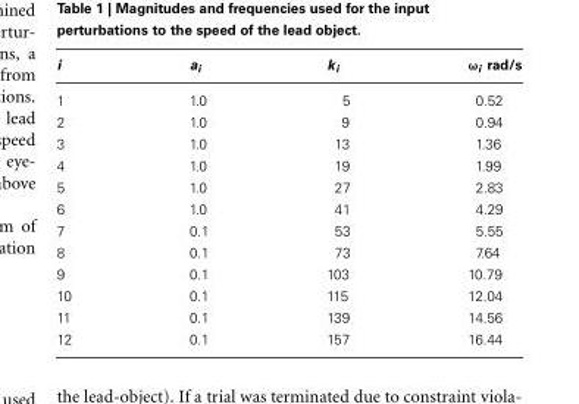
<table><thead><tr><td>i</td><td>a<sub>i</sub></td><td>k<sub>i</sub></td><td>ω<sub>i</sub> rad/s</td></tr></thead><tbody><tr><td>1</td><td>1.0</td><td>5</td><td>0.52</td></tr><tr><td>2</td><td>1.0</td><td>9</td><td>0.94</td></tr><tr><td>3</td><td>1.0</td><td>13</td><td>1.36</td></tr><tr><td>4</td><td>1.0</td><td>19</td><td>1.99</td></tr><tr><td>5</td><td>1.0</td><td>27</td><td>2.83</td></tr><tr><td>6</td><td>1.0</td><td>41</td><td>4.29</td></tr><tr><td>7</td><td>0.1</td><td>53</td><td>5.55</td></tr><tr><td>8</td><td>0.1</td><td>73</td><td>7.64</td></tr><tr><td>9</td><td>0.1</td><td>103</td><td>10.79</td></tr><tr><td>10</td><td>0.1</td><td>115</td><td>12.04</td></tr><tr><td>11</td><td>0.1</td><td>139</td><td>14.56</td></tr><tr><td>12</td><td>0.1</td><td>157</td><td>16.44</td></tr></tbody></table>